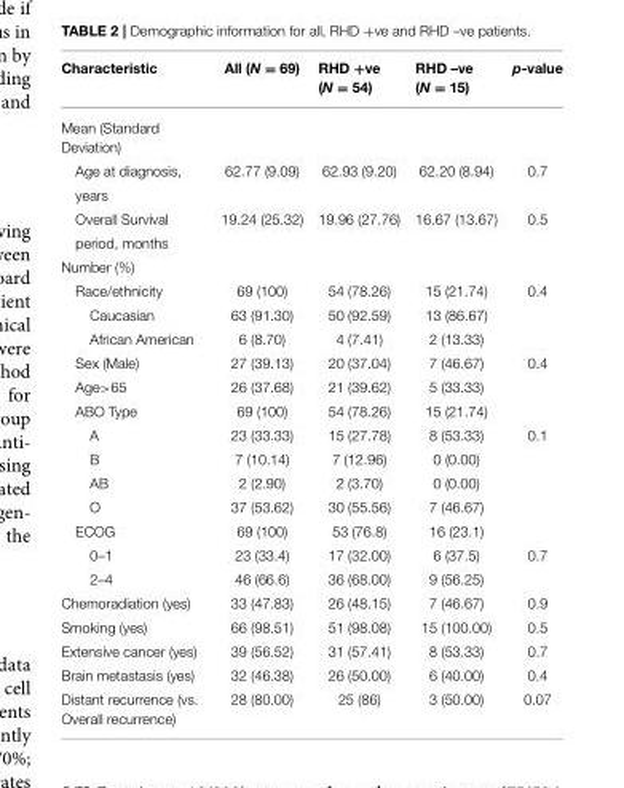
<table><thead><tr><td>Characteristic</td><td>All (N = 69)</td><td>RHD +ve (N = 54)</td><td>RHD –ve (N = 15)</td><td>p-value</td></tr></thead><tbody><tr><td colspan="5">Mean (Standard Deviation)</td></tr><tr><td>Age at diagnosis,</td><td>62.77 (9.09)</td><td>62.93 (9.20)</td><td>62.20 (8.94)</td><td>0.7</td></tr><tr><td colspan="5">years</td></tr><tr><td>Overall Survival</td><td>19.24 (25.32)</td><td>19.96 (27.76)</td><td>16.67 (13.67)</td><td>0.5</td></tr><tr><td colspan="5">period, months</td></tr><tr><td colspan="5">Number (%)</td></tr><tr><td>Race/ethnicity</td><td>69 (100)</td><td>54 (78.26)</td><td>15 (21.74)</td><td>0.4</td></tr><tr><td>Caucasian</td><td>63 (91.30)</td><td>50 (92.59)</td><td>13 (86.67)</td><td></td></tr><tr><td>African American</td><td>6 (8.70)</td><td>4 (7.41)</td><td>2 (13.33)</td><td></td></tr><tr><td>Sex (Male)</td><td>27 (39.13)</td><td>20 (37.04)</td><td>7 (46.67)</td><td>0.4</td></tr><tr><td>Age&gt;65</td><td>26 (37.68)</td><td>21 (39.62)</td><td>5 (33.33)</td><td></td></tr><tr><td>ABO Type</td><td>69 (100)</td><td>54 (78.26)</td><td>15 (21.74)</td><td></td></tr><tr><td>A</td><td>23 (33.33)</td><td>15 (27.78)</td><td>8 (53.33)</td><td>0.1</td></tr><tr><td>B</td><td>7 (10.14)</td><td>7 (12.96)</td><td>0 (0.00)</td><td></td></tr><tr><td>AB</td><td>2 (2.90)</td><td>2 (3.70)</td><td>0 (0.00)</td><td></td></tr><tr><td>O</td><td>37 (53.62)</td><td>30 (55.56)</td><td>7 (46.67)</td><td></td></tr><tr><td>ECOG</td><td>69 (100)</td><td>53 (76.8)</td><td>16 (23.1)</td><td></td></tr><tr><td>0–1</td><td>23 (33.4)</td><td>17 (32.00)</td><td>6 (37.5)</td><td>0.7</td></tr><tr><td>2–4</td><td>46 (66.6)</td><td>36 (68.00)</td><td>9 (56.25)</td><td></td></tr><tr><td>Chemoradiation (yes)</td><td>33 (47.83)</td><td>26 (48.15)</td><td>7 (46.67)</td><td>0.9</td></tr><tr><td>Smoking (yes)</td><td>66 (98.51)</td><td>51 (98.08)</td><td>15 (100.00)</td><td>0.5</td></tr><tr><td>Extensive cancer (yes)</td><td>39 (56.52)</td><td>31 (57.41)</td><td>8 (53.33)</td><td>0.7</td></tr><tr><td>Brain metastasis (yes)</td><td>32 (46.38)</td><td>26 (50.00)</td><td>6 (40.00)</td><td>0.4</td></tr><tr><td>Distant recurrence (vs. Overall recurrence)</td><td>28 (80.00)</td><td>25 (86)</td><td>3 (50.00)</td><td>0.07</td></tr></tbody></table>